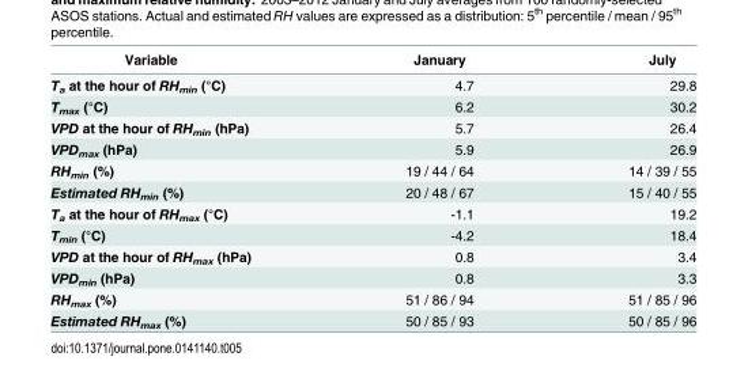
<table><thead><tr><td>Variable</td><td>January</td><td>July</td></tr></thead><tbody><tr><td>T<sub>a</sub> at the hour of RH<sub>min</sub> (°C)</td><td>4.7</td><td>29.8</td></tr><tr><td>T<sub>max</sub> (°C)</td><td>6.2</td><td>30.2</td></tr><tr><td>VPD at the hour of RH<sub>min</sub> (hPa)</td><td>5.7</td><td>26.4</td></tr><tr><td>VPD<sub>max</sub> (hPa)</td><td>5.9</td><td>26.9</td></tr><tr><td>RH<sub>min</sub> (%)</td><td>19 / 44 / 64</td><td>14 / 39 / 55</td></tr><tr><td>Estimated RH<sub>min</sub> (%)</td><td>20 / 48 / 67</td><td>15 / 40 / 55</td></tr><tr><td>T<sub>a</sub> at the hour of RH<sub>max</sub> (°C)</td><td>-1.1</td><td>19.2</td></tr><tr><td>T<sub>min</sub> (°C)</td><td>-4.2</td><td>18.4</td></tr><tr><td>VPD at the hour of RH<sub>max</sub> (hPa)</td><td>0.8</td><td>3.4</td></tr><tr><td>VPD<sub>min</sub> (hPa)</td><td>0.8</td><td>3.3</td></tr><tr><td>RH<sub>max</sub> (%)</td><td>51 / 86 / 94</td><td>51 / 85 / 96</td></tr><tr><td>Estimated RH<sub>max</sub> (%)</td><td>50 / 85 / 93</td><td>50 / 85 / 96</td></tr></tbody></table>